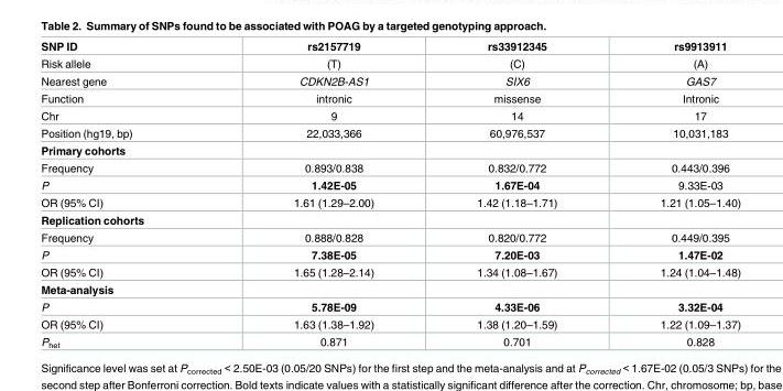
<table><thead><tr><td>SNP ID</td><td>rs2157719</td><td>rs33912345</td><td>rs9913911</td></tr></thead><tbody><tr><td>Risk allele</td><td>(T)</td><td>(C)</td><td>(A)</td></tr><tr><td>Nearest gene</td><td>CDKN2B-AS1</td><td>SIX6</td><td>GAS7</td></tr><tr><td>Function</td><td>intronic</td><td>missense</td><td>Intronic</td></tr><tr><td>Chr</td><td>9</td><td>14</td><td>17</td></tr><tr><td>Position (hg19, bp)</td><td>22,033,366</td><td>60,976,537</td><td>10,031,183</td></tr><tr><td colspan="4">Primary cohorts</td></tr><tr><td>Frequency</td><td>0.893/0.838</td><td>0.832/0.772</td><td>0.443/0.396</td></tr><tr><td>P</td><td>1.42E-05</td><td>1.67E-04</td><td>9.33E-03</td></tr><tr><td>OR (95% CI)</td><td>1.61 (1.29–2.00)</td><td>1.42 (1.18–1.71)</td><td>1.21 (1.05–1.40)</td></tr><tr><td colspan="4">Replication cohorts</td></tr><tr><td>Frequency</td><td>0.888/0.828</td><td>0.820/0.772</td><td>0.449/0.395</td></tr><tr><td>P</td><td>7.38E-05</td><td>7.20E-03</td><td>1.47E-02</td></tr><tr><td>OR (95% CI)</td><td>1.65 (1.28–2.14)</td><td>1.34 (1.08–1.67)</td><td>1.24 (1.04–1.48)</td></tr><tr><td colspan="4">Meta-analysis</td></tr><tr><td>P</td><td>5.78E-09</td><td>4.33E-06</td><td>3.32E-04</td></tr><tr><td>OR (95% CI)</td><td>1.63 (1.38–1.92)</td><td>1.38 (1.20–1.59)</td><td>1.22 (1.09–1.37)</td></tr><tr><td>P<sub>het</sub></td><td>0.871</td><td>0.701</td><td>0.828</td></tr></tbody></table>